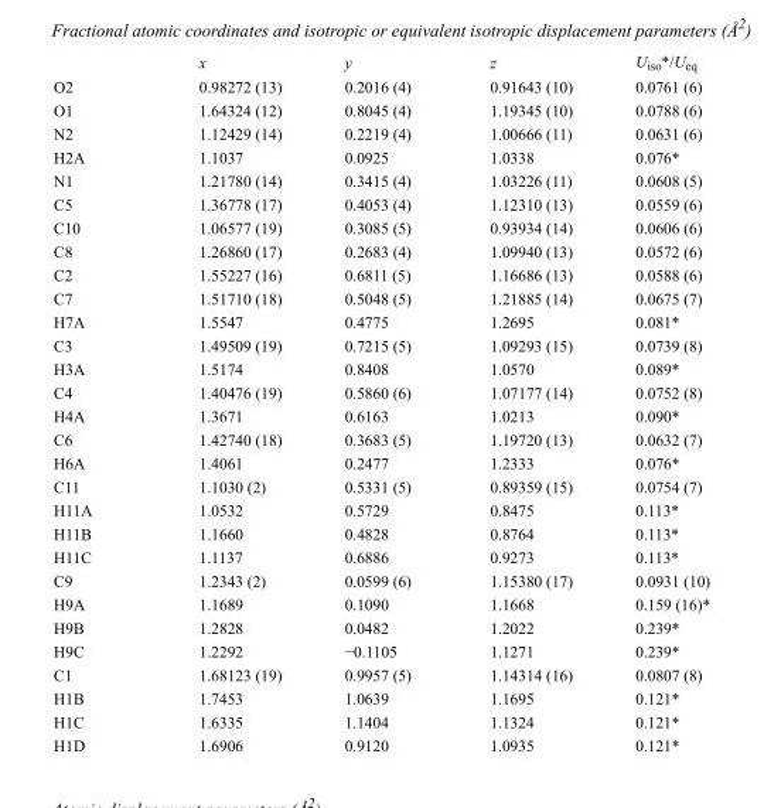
<table><thead><tr><td></td><td>x</td><td>y</td><td>z</td><td>U<sub>iso</sub>*/U<sub>eq</sub></td></tr></thead><tbody><tr><td>O2</td><td>0.98272 (13)</td><td>0.2016 (4)</td><td>0.91643 (10)</td><td>0.0761 (6)</td></tr><tr><td>O1</td><td>1.64324 (12)</td><td>0.8045 (4)</td><td>1.19345 (10)</td><td>0.0788 (6)</td></tr><tr><td>N2</td><td>1.12429 (14)</td><td>0.2219 (4)</td><td>1.00666 (11)</td><td>0.0631 (6)</td></tr><tr><td>H2A</td><td>1.1037</td><td>0.0925</td><td>1.0338</td><td>0.076*</td></tr><tr><td>N1</td><td>1.21780 (14)</td><td>0.3415 (4)</td><td>1.03226 (11)</td><td>0.0608 (5)</td></tr><tr><td>C5</td><td>1.36778 (17)</td><td>0.4053 (4)</td><td>1.12310 (13)</td><td>0.0559 (6)</td></tr><tr><td>C10</td><td>1.06577 (19)</td><td>0.3085 (5)</td><td>0.93934 (14)</td><td>0.0606 (6)</td></tr><tr><td>C8</td><td>1.26860 (17)</td><td>0.2683 (4)</td><td>1.09940 (13)</td><td>0.0572 (6)</td></tr><tr><td>C2</td><td>1.55227 (16)</td><td>0.6811 (5)</td><td>1.16686 (13)</td><td>0.0588 (6)</td></tr><tr><td>C7</td><td>1.51710 (18)</td><td>0.5048 (5)</td><td>1.21885 (14)</td><td>0.0675 (7)</td></tr><tr><td>H7A</td><td>1.5547</td><td>0.4775</td><td>1.2695</td><td>0.081*</td></tr><tr><td>C3</td><td>1.49509 (19)</td><td>0.7215 (5)</td><td>1.09293 (15)</td><td>0.0739 (8)</td></tr><tr><td>H3A</td><td>1.5174</td><td>0.8408</td><td>1.0570</td><td>0.089*</td></tr><tr><td>C4</td><td>1.40476 (19)</td><td>0.5860 (6)</td><td>1.07177 (14)</td><td>0.0752 (8)</td></tr><tr><td>H4A</td><td>1.3671</td><td>0.6163</td><td>1.0213</td><td>0.090*</td></tr><tr><td>C6</td><td>1.42740 (18)</td><td>0.3683 (5)</td><td>1.19720 (13)</td><td>0.0632 (7)</td></tr><tr><td>H6A</td><td>1.4061</td><td>0.2477</td><td>1.2333</td><td>0.076*</td></tr><tr><td>C11</td><td>1.1030 (2)</td><td>0.5331 (5)</td><td>0.89359 (15)</td><td>0.0754 (7)</td></tr><tr><td>H11A</td><td>1.0532</td><td>0.5729</td><td>0.8475</td><td>0.113*</td></tr><tr><td>H11B</td><td>1.1660</td><td>0.4828</td><td>0.8764</td><td>0.113*</td></tr><tr><td>H11C</td><td>1.1137</td><td>0.6886</td><td>0.9273</td><td>0.113*</td></tr><tr><td>C9</td><td>1.2343 (2)</td><td>0.0599 (6)</td><td>1.15380 (17)</td><td>0.0931 (10)</td></tr><tr><td>H9A</td><td>1.1689</td><td>0.1090</td><td>1.1668</td><td>0.159 (16)*</td></tr><tr><td>H9B</td><td>1.2828</td><td>0.0482</td><td>1.2022</td><td>0.239*</td></tr><tr><td>H9C</td><td>1.2292</td><td>−0.1105</td><td>1.1271</td><td>0.239*</td></tr><tr><td>C1</td><td>1.68123 (19)</td><td>0.9957 (5)</td><td>1.14314 (16)</td><td>0.0807 (8)</td></tr><tr><td>H1B</td><td>1.7453</td><td>1.0639</td><td>1.1695</td><td>0.121*</td></tr><tr><td>H1C</td><td>1.6335</td><td>1.1404</td><td>1.1324</td><td>0.121*</td></tr><tr><td>H1D</td><td>1.6906</td><td>0.9120</td><td>1.0935</td><td>0.121*</td></tr></tbody></table>